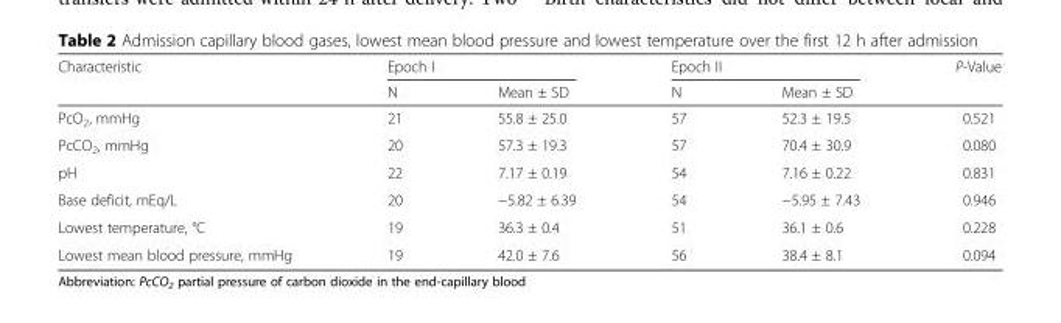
<table><thead><tr><td rowspan="2">Characteristic</td><td colspan="2">Epoch I</td><td colspan="2">Epoch II</td><td rowspan="2">P-Value</td></tr><tr><td>N</td><td>Mean ± SD</td><td>N</td><td>Mean ± SD</td></tr></thead><tbody><tr><td>PcO<sub>2</sub>, mmHg</td><td>21</td><td>55.8 ± 25.0</td><td>57</td><td>52.3 ± 19.5</td><td>0.521</td></tr><tr><td>PcCO<sub>2</sub>, mmHg</td><td>20</td><td>57.3 ± 19.3</td><td>57</td><td>70.4 ± 30.9</td><td>0.080</td></tr><tr><td>pH</td><td>22</td><td>7.17 ± 0.19</td><td>54</td><td>7.16 ± 0.22</td><td>0.831</td></tr><tr><td>Base deficit, mEq/L</td><td>20</td><td>−5.82 ± 6.39</td><td>54</td><td>−5.95 ± 7.43</td><td>0.946</td></tr><tr><td>Lowest temperature, °C</td><td>19</td><td>36.3 ± 0.4</td><td>51</td><td>36.1 ± 0.6</td><td>0.228</td></tr><tr><td>Lowest mean blood pressure, mmHg</td><td>19</td><td>42.0 ± 7.6</td><td>56</td><td>38.4 ± 8.1</td><td>0.094</td></tr></tbody></table>